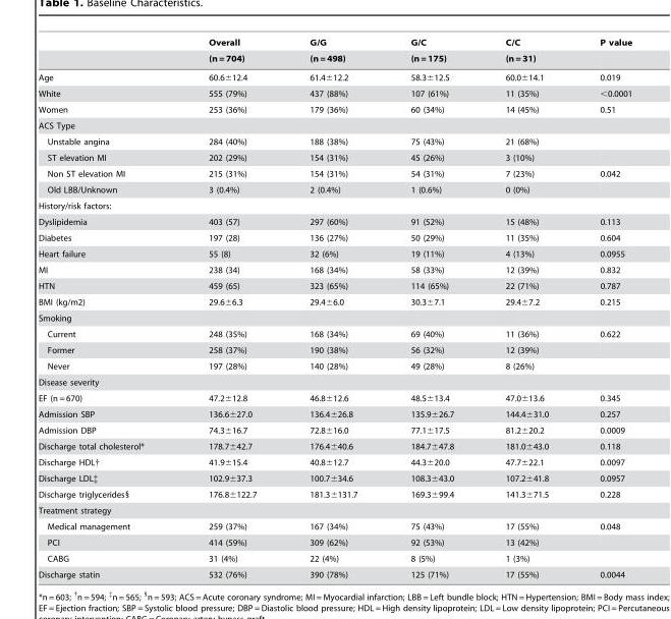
<table><thead><tr><td rowspan="2"></td><td rowspan="2">Overall (n = 704)</td><td rowspan="2">G/G (n = 498)</td><td rowspan="2">G/C (n = 175)</td><td rowspan="2">C/C (n = 31)</td><td rowspan="2">P value</td></tr><tr></tr></thead><tbody><tr><td>Age</td><td>60.6±12.4</td><td>61.4±12.2</td><td>58.3±12.5</td><td>60.0±14.1</td><td>0.019</td></tr><tr><td>White</td><td>555 (79%)</td><td>437 (88%)</td><td>107 (61%)</td><td>11 (35%)</td><td>&lt;0.0001</td></tr><tr><td>Women</td><td>253 (36%)</td><td>179 (36%)</td><td>60 (34%)</td><td>14 (45%)</td><td>0.51</td></tr><tr><td colspan="6">ACS Type</td></tr><tr><td>Unstable angina</td><td>284 (40%)</td><td>188 (38%)</td><td>75 (43%)</td><td>21 (68%)</td><td></td></tr><tr><td>ST elevation MI</td><td>202 (29%)</td><td>154 (31%)</td><td>45 (26%)</td><td>3 (10%)</td><td></td></tr><tr><td>Non ST elevation MI</td><td>215 (31%)</td><td>154 (31%)</td><td>54 (31%)</td><td>7 (23%)</td><td>0.042</td></tr><tr><td>Old LBB/Unknown</td><td>3 (0.4%)</td><td>2 (0.4%)</td><td>1 (0.6%)</td><td>0 (0%)</td><td></td></tr><tr><td colspan="6">History/risk factors:</td></tr><tr><td>Dyslipidemia</td><td>403 (57)</td><td>297 (60%)</td><td>91 (52%)</td><td>15 (48%)</td><td>0.113</td></tr><tr><td>Diabetes</td><td>197 (28)</td><td>136 (27%)</td><td>50 (29%)</td><td>11 (35%)</td><td>0.604</td></tr><tr><td>Heart failure</td><td>55 (8)</td><td>32 (6%)</td><td>19 (11%)</td><td>4 (13%)</td><td>0.0955</td></tr><tr><td>MI</td><td>238 (34)</td><td>168 (34%)</td><td>58 (33%)</td><td>12 (39%)</td><td>0.832</td></tr><tr><td>HTN</td><td>459 (65)</td><td>323 (65%)</td><td>114 (65%)</td><td>22 (71%)</td><td>0.787</td></tr><tr><td>BMI (kg/m2)</td><td>29.6±6.3</td><td>29.4±6.0</td><td>30.3±7.1</td><td>29.4±7.2</td><td>0.215</td></tr><tr><td colspan="6">Smoking</td></tr><tr><td>Current</td><td>248 (35%)</td><td>168 (34%)</td><td>69 (40%)</td><td>11 (36%)</td><td>0.622</td></tr><tr><td>Former</td><td>258 (37%)</td><td>190 (38%)</td><td>56 (32%)</td><td>12 (39%)</td><td></td></tr><tr><td>Never</td><td>197 (28%)</td><td>140 (28%)</td><td>49 (28%)</td><td>8 (26%)</td><td></td></tr><tr><td colspan="6">Disease severity</td></tr><tr><td>EF (n = 670)</td><td>47.2±12.8</td><td>46.8±12.6</td><td>48.5±13.4</td><td>47.0±13.6</td><td>0.345</td></tr><tr><td>Admission SBP</td><td>136.6±27.0</td><td>136.4±26.8</td><td>135.9±26.7</td><td>144.4±31.0</td><td>0.257</td></tr><tr><td>Admission DBP</td><td>74.3±16.7</td><td>72.8±16.0</td><td>77.1±17.5</td><td>81.2±20.2</td><td>0.0009</td></tr><tr><td>Discharge total cholesterol*</td><td>178.7±42.7</td><td>176.4±40.6</td><td>184.7±47.8</td><td>181.0±43.0</td><td>0.118</td></tr><tr><td>Discharge HDL†</td><td>41.9±15.4</td><td>40.8±12.7</td><td>44.3±20.0</td><td>47.7±22.1</td><td>0.0097</td></tr><tr><td>Discharge LDL‡</td><td>102.9±37.3</td><td>100.7±34.6</td><td>108.3±43.0</td><td>107.2±41.8</td><td>0.0957</td></tr><tr><td>Discharge triglycerides§</td><td>176.8±122.7</td><td>181.3±131.7</td><td>169.3±99.4</td><td>141.3±71.5</td><td>0.228</td></tr><tr><td colspan="6">Treatment strategy</td></tr><tr><td>Medical management</td><td>259 (37%)</td><td>167 (34%)</td><td>75 (43%)</td><td>17 (55%)</td><td>0.048</td></tr><tr><td>PCI</td><td>414 (59%)</td><td>309 (62%)</td><td>92 (53%)</td><td>13 (42%)</td><td></td></tr><tr><td>CABG</td><td>31 (4%)</td><td>22 (4%)</td><td>8 (5%)</td><td>1 (3%)</td><td></td></tr><tr><td>Discharge statin</td><td>532 (76%)</td><td>390 (78%)</td><td>125 (71%)</td><td>17 (55%)</td><td>0.0044</td></tr></tbody></table>